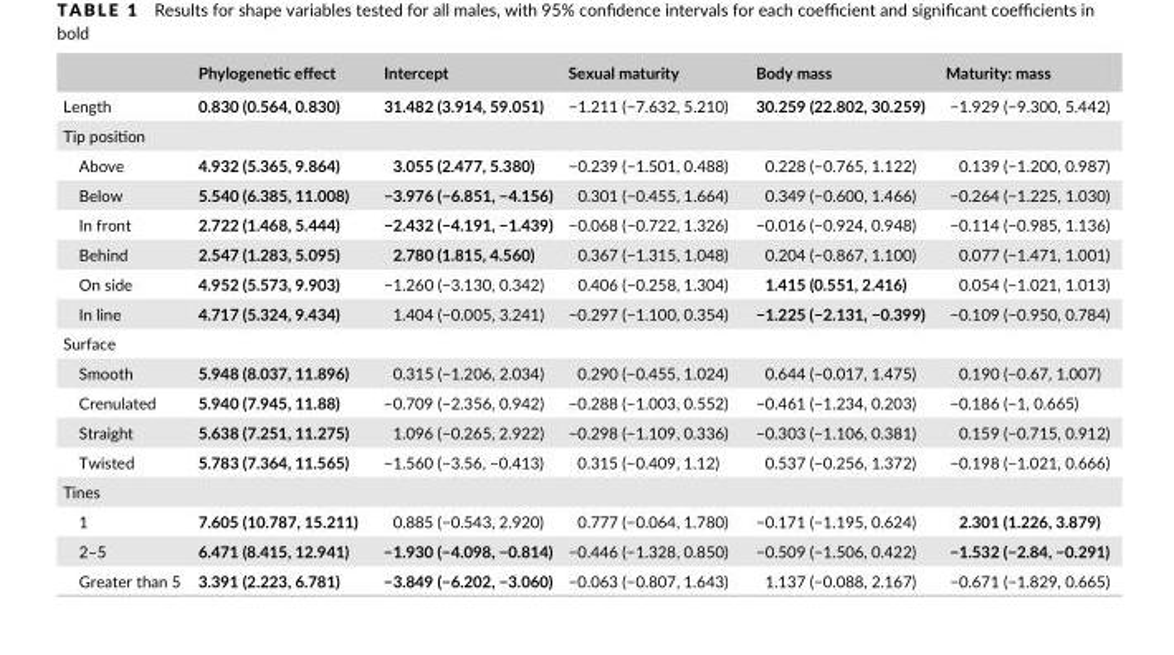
<table><thead><tr><td></td><td>Phylogenetic effect</td><td>Intercept</td><td>Sexual maturity</td><td>Body mass</td><td>Maturity: mass</td></tr></thead><tbody><tr><td>Length</td><td>0.830 (0.564, 0.830)</td><td>31.482 (3.914, 59.051)</td><td>−1.211 (−7.632, 5.210)</td><td>30.259 (22.802, 30.259)</td><td>−1.929 (−9.300, 5.442)</td></tr><tr><td colspan="6">Tip position</td></tr><tr><td>Above</td><td>4.932 (5.365, 9.864)</td><td>3.055 (2.477, 5.380)</td><td>−0.239 (−1.501, 0.488)</td><td>0.228 (−0.765, 1.122)</td><td>0.139 (−1.200, 0.987)</td></tr><tr><td>Below</td><td>5.540 (6.385, 11.008)</td><td>−3.976 (−6.851, −4.156)</td><td>0.301 (−0.455, 1.664)</td><td>0.349 (−0.600, 1.466)</td><td>−0.264 (−1.225, 1.030)</td></tr><tr><td>In front</td><td>2.722 (1.468, 5.444)</td><td>−2.432 (−4.191, −1.439)</td><td>−0.068 (−0.722, 1.326)</td><td>−0.016 (−0.924, 0.948)</td><td>−0.114 (−0.985, 1.136)</td></tr><tr><td>Behind</td><td>2.547 (1.283, 5.095)</td><td>2.780 (1.815, 4.560)</td><td>0.367 (−1.315, 1.048)</td><td>0.204 (−0.867, 1.100)</td><td>0.077 (−1.471, 1.001)</td></tr><tr><td>On side</td><td>4.952 (5.573, 9.903)</td><td>−1.260 (−3.130, 0.342)</td><td>0.406 (−0.258, 1.304)</td><td>1.415 (0.551, 2.416)</td><td>0.054 (−1.021, 1.013)</td></tr><tr><td>In line</td><td>4.717 (5.324, 9.434)</td><td>1.404 (−0.005, 3.241)</td><td>−0.297 (−1.100, 0.354)</td><td>−1.225 (−2.131, −0.399)</td><td>−0.109 (−0.950, 0.784)</td></tr><tr><td colspan="6">Surface</td></tr><tr><td>Smooth</td><td>5.948 (8.037, 11.896)</td><td>0.315 (−1.206, 2.034)</td><td>0.290 (−0.455, 1.024)</td><td>0.644 (−0.017, 1.475)</td><td>0.190 (−0.67, 1.007)</td></tr><tr><td>Crenulated</td><td>5.940 (7.945, 11.88)</td><td>−0.709 (−2.356, 0.942)</td><td>−0.288 (−1.003, 0.552)</td><td>−0.461 (−1.234, 0.203)</td><td>−0.186 (−1, 0.665)</td></tr><tr><td>Straight</td><td>5.638 (7.251, 11.275)</td><td>1.096 (−0.265, 2.922)</td><td>−0.298 (−1.109, 0.336)</td><td>−0.303 (−1.106, 0.381)</td><td>0.159 (−0.715, 0.912)</td></tr><tr><td>Twisted</td><td>5.783 (7.364, 11.565)</td><td>−1.560 (−3.56, −0.413)</td><td>0.315 (−0.409, 1.12)</td><td>0.537 (−0.256, 1.372)</td><td>−0.198 (−1.021, 0.666)</td></tr><tr><td colspan="6">Tines</td></tr><tr><td>1</td><td>7.605 (10.787, 15.211)</td><td>0.885 (−0.543, 2.920)</td><td>0.777 (−0.064, 1.780)</td><td>−0.171 (−1.195, 0.624)</td><td>2.301 (1.226, 3.879)</td></tr><tr><td>2–5</td><td>6.471 (8.415, 12.941)</td><td>−1.930 (−4.098, −0.814)</td><td>−0.446 (−1.328, 0.850)</td><td>−0.509 (−1.506, 0.422)</td><td>−1.532 (−2.84, −0.291)</td></tr><tr><td>Greater than 5</td><td>3.391 (2.223, 6.781)</td><td>−3.849 (−6.202, −3.060)</td><td>−0.063 (−0.807, 1.643)</td><td>1.137 (−0.088, 2.167)</td><td>−0.671 (−1.829, 0.665)</td></tr></tbody></table>